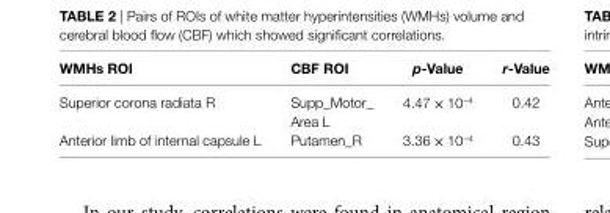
<table><thead><tr><td>WMhs rOi</td><td>cBF rOi</td><td>p-Value</td><td>r-Value</td></tr></thead><tbody><tr><td>Superior corona radiata R</td><td>Supp_Motor_ Area L</td><td>4.47 × 10<sup>−4</sup></td><td>0.42</td></tr><tr><td>Anterior limb of internal capsule L</td><td>Putamen_R</td><td>3.36 × 10<sup>−4</sup></td><td>0.43</td></tr></tbody></table>